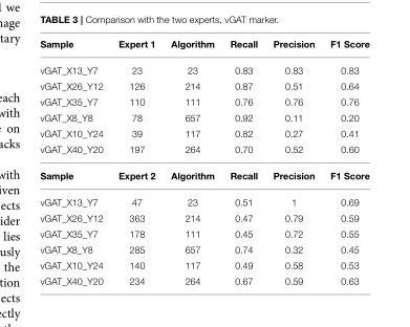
<table><thead><tr><td>Sample</td><td>Expert 1</td><td>Algorithm</td><td>Recall</td><td>Precision</td><td>F1 Score</td></tr></thead><tbody><tr><td>vGAT_X13_Y7</td><td>23</td><td>23</td><td>0.83</td><td>0.83</td><td>0.83</td></tr><tr><td>vGAT_X26_Y12</td><td>126</td><td>214</td><td>0.87</td><td>0.51</td><td>0.64</td></tr><tr><td>vGAT_X35_Y7</td><td>110</td><td>111</td><td>0.76</td><td>0.76</td><td>0.76</td></tr><tr><td>vGAT_X8_Y8</td><td>78</td><td>657</td><td>0.92</td><td>0.11</td><td>0.20</td></tr><tr><td>vGAT_X10_Y24</td><td>39</td><td>117</td><td>0.82</td><td>0.27</td><td>0.41</td></tr><tr><td>vGAT_X40_Y20</td><td>197</td><td>264</td><td>0.70</td><td>0.52</td><td>0.60</td></tr><tr><td>Sample</td><td>Expert 2</td><td>Algorithm</td><td>Recall</td><td>Precision</td><td>F1 Score</td></tr><tr><td>vGAT_X13_Y7</td><td>47</td><td>23</td><td>0.51</td><td>1</td><td>0.69</td></tr><tr><td>vGAT_X26_Y12</td><td>363</td><td>214</td><td>0.47</td><td>0.79</td><td>0.59</td></tr><tr><td>vGAT_X35_Y7</td><td>178</td><td>111</td><td>0.45</td><td>0.72</td><td>0.55</td></tr><tr><td>vGAT_X8_Y8</td><td>285</td><td>657</td><td>0.74</td><td>0.32</td><td>0.45</td></tr><tr><td>vGAT_X10_Y24</td><td>140</td><td>117</td><td>0.49</td><td>0.58</td><td>0.53</td></tr><tr><td>vGAT_X40_Y20</td><td>234</td><td>264</td><td>0.67</td><td>0.59</td><td>0.63</td></tr></tbody></table>